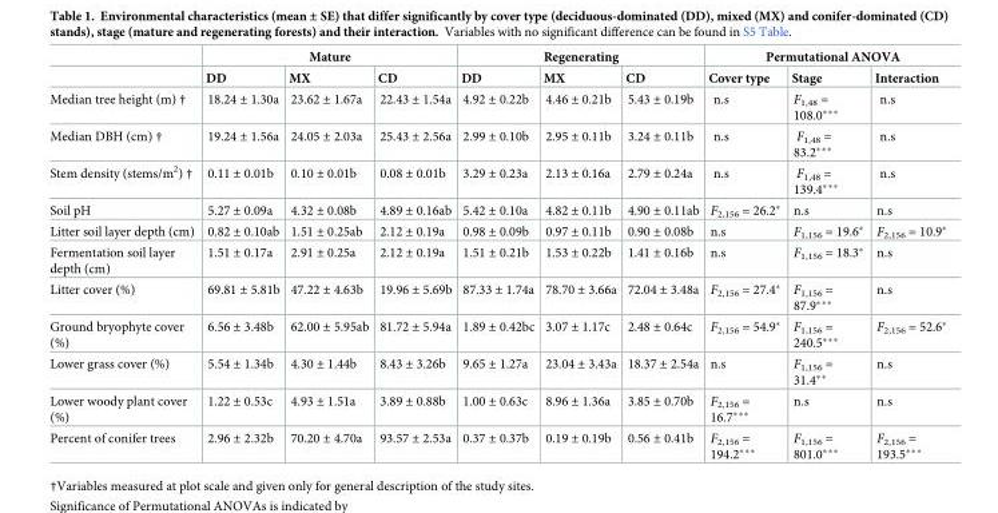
<table><thead><tr><td rowspan="2"></td><td colspan="3">Mature</td><td colspan="3">Regenerating</td><td colspan="3">Permutational ANOVA</td></tr><tr><td>DD</td><td>MX</td><td>CD</td><td>DD</td><td>MX</td><td>CD</td><td>Cover type</td><td>Stage</td><td>Interaction</td></tr></thead><tbody><tr><td>Median tree height (m) †</td><td>18.24 ± 1.30a</td><td>23.62 ± 1.67a</td><td>22.43 ± 1.54a</td><td>4.92 ± 0.22b</td><td>4.46 ± 0.21b</td><td>5.43 ± 0.19b</td><td>n.s</td><td>F<sub>1,48</sub> = 108.0***</td><td>n.s</td></tr><tr><td>Median DBH (cm) †</td><td>19.24 ± 1.56a</td><td>24.05 ± 2.03a</td><td>25.43 ± 2.56a</td><td>2.99 ± 0.10b</td><td>2.95 ± 0.11b</td><td>3.24 ± 0.11b</td><td>n.s</td><td>F<sub>1,48</sub> = 83.2***</td><td>n.s</td></tr><tr><td>Stem density (stems/m<sup>2</sup>) †</td><td>0.11 ± 0.01b</td><td>0.10 ± 0.01b</td><td>0.08 ± 0.01b</td><td>3.29 ± 0.23a</td><td>2.13 ± 0.16a</td><td>2.79 ± 0.24a</td><td>n.s</td><td>F<sub>1,48</sub> = 139.4***</td><td>n.s</td></tr><tr><td>Soil pH</td><td>5.27 ± 0.09a</td><td>4.32 ± 0.08b</td><td>4.89 ± 0.16ab</td><td>5.42 ± 0.10a</td><td>4.82 ± 0.11b</td><td>4.90 ± 0.11ab</td><td>F<sub>2,156</sub> = 26.2*</td><td>n.s</td><td>n.s</td></tr><tr><td>Litter soil layer depth (cm)</td><td>0.82 ± 0.10ab</td><td>1.51 ± 0.25ab</td><td>2.12 ± 0.19a</td><td>0.98 ± 0.09b</td><td>0.97 ± 0.11b</td><td>0.90 ± 0.08b</td><td>n.s</td><td>F<sub>1,156</sub> = 19.6*</td><td>F<sub>2,156</sub> = 10.9*</td></tr><tr><td>Fermentation soil layer depth (cm)</td><td>1.51 ± 0.17a</td><td>2.91 ± 0.25a</td><td>2.12 ± 0.19a</td><td>1.51 ± 0.21b</td><td>1.53 ± 0.22b</td><td>1.41 ± 0.16b</td><td>n.s</td><td>F<sub>1,156</sub> = 18.3*</td><td>n.s</td></tr><tr><td>Litter cover (%)</td><td>69.81 ± 5.81b</td><td>47.22 ± 4.63b</td><td>19.96 ± 5.69b</td><td>87.33 ± 1.74a</td><td>78.70 ± 3.66a</td><td>72.04 ± 3.48a</td><td>F<sub>2,156</sub> = 27.4*</td><td>F<sub>1,156</sub> = 87.9***</td><td>n.s</td></tr><tr><td>Ground bryophyte cover (%)</td><td>6.56 ± 3.48b</td><td>62.00 ± 5.95ab</td><td>81.72 ± 5.94a</td><td>1.89 ± 0.42bc</td><td>3.07 ± 1.17c</td><td>2.48 ± 0.64c</td><td>F<sub>2,156</sub> = 54.9*</td><td>F<sub>1,156</sub> = 240.5***</td><td>F<sub>2,156</sub> = 52.6*</td></tr><tr><td>Lower grass cover (%)</td><td>5.54 ± 1.34b</td><td>4.30 ± 1.44b</td><td>8.43 ± 3.26b</td><td>9.65 ± 1.27a</td><td>23.04 ± 3.43a</td><td>18.37 ± 2.54a</td><td>n.s</td><td>F<sub>1,156</sub> = 31.4**</td><td>n.s</td></tr><tr><td>Lower woody plant cover (%)</td><td>1.22 ± 0.53c</td><td>4.93 ± 1.51a</td><td>3.89 ± 0.88b</td><td>1.00 ± 0.63c</td><td>8.96 ± 1.36a</td><td>3.85 ± 0.70b</td><td>F<sub>2,156</sub> = 16.7***</td><td>n.s</td><td>n.s</td></tr><tr><td>Percent of conifer trees</td><td>2.96 ± 2.32b</td><td>70.20 ± 4.70a</td><td>93.57 ± 2.53a</td><td>0.37 ± 0.37b</td><td>0.19 ± 0.19b</td><td>0.56 ± 0.41b</td><td>F<sub>2,156</sub> = 194.2***</td><td>F<sub>1,156</sub> = 801.0***</td><td>F<sub>2,156</sub> = 193.5***</td></tr></tbody></table>